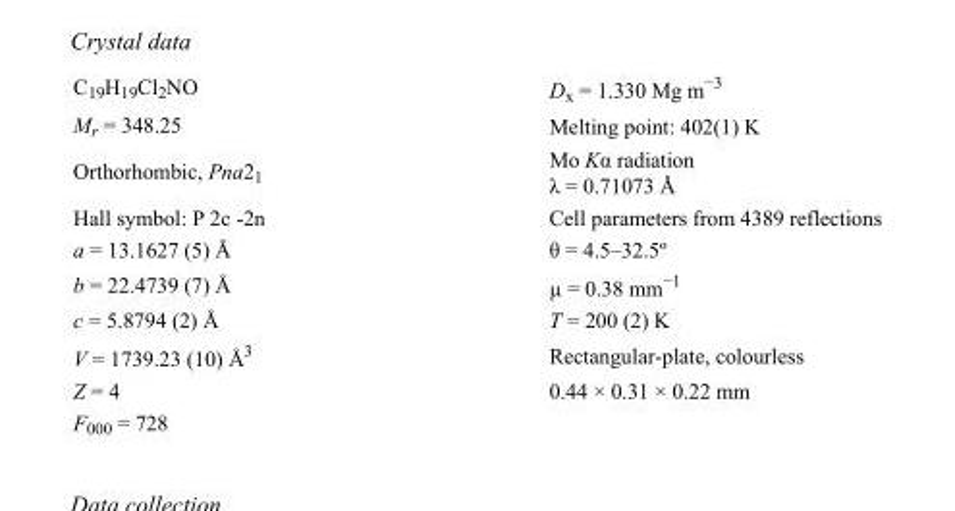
<table><tbody><tr><td>C<sub>19</sub>H<sub>19</sub>Cl<sub>2</sub>NO</td><td>D<sub>x</sub> = 1.330 Mg m<sup>−3</sup></td></tr><tr><td>M<sub>r</sub> = 348.25</td><td>Melting point: 402(1) K</td></tr><tr><td>Orthorhombic, Pna2<sub>1</sub></td><td>Mo Kα radiation λ = 0.71073 Å</td></tr><tr><td>Hall symbol: P 2c -2n</td><td>Cell parameters from 4389 reflections</td></tr><tr><td>a = 13.1627 (5) Å</td><td>θ = 4.5–32.5º</td></tr><tr><td>b = 22.4739 (7) Å</td><td>µ = 0.38 mm<sup>−1</sup></td></tr><tr><td>c = 5.8794 (2) Å</td><td>T = 200 (2) K</td></tr><tr><td>V = 1739.23 (10) Å<sup>3</sup></td><td>Rectangular-plate, colourless</td></tr><tr><td>Z = 4</td><td>0.44 × 0.31 × 0.22 mm</td></tr><tr><td>F<sub>000</sub> = 728</td><td></td></tr></tbody></table>